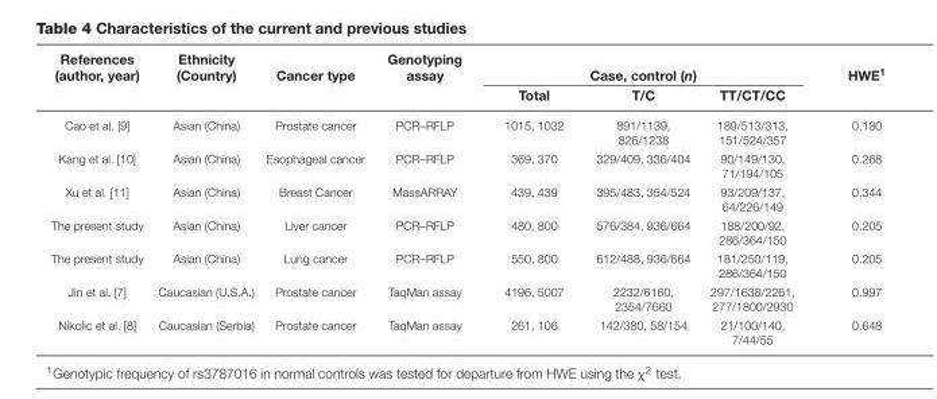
<table><thead><tr><td rowspan="2">References (author, year)</td><td rowspan="2">Ethnicity (Country)</td><td rowspan="2">Cancer type</td><td rowspan="2">Genotyping assay</td><td colspan="3">Case, control (n)</td><td rowspan="2">HWE<sup>1</sup></td></tr><tr><td>Total</td><td>T/C</td><td>TT/CT/CC</td></tr></thead><tbody><tr><td>Cao et al. [9]</td><td>Asian (China)</td><td>Prostate cancer</td><td>PCR–RFLP</td><td>1015, 1032</td><td>891/1139, 826/1238</td><td>189/513/313, 151/524/357</td><td>0.180</td></tr><tr><td>Kang et al. [10]</td><td>Asian (China)</td><td>Esophageal cancer</td><td>PCR–RFLP</td><td>369, 370</td><td>329/409, 336/404</td><td>90/149/130, 71/194/105</td><td>0.268</td></tr><tr><td>Xu et al. [11]</td><td>Asian (China)</td><td>Breast Cancer</td><td>MassARRAY</td><td>439, 439</td><td>395/483, 354/524</td><td>93/209/137, 64/226/149</td><td>0.344</td></tr><tr><td>The present study</td><td>Asian (China)</td><td>Liver cancer</td><td>PCR–RFLP</td><td>480, 800</td><td>576/384, 936/664</td><td>188/200/92, 286/364/150</td><td>0.205</td></tr><tr><td>The present study</td><td>Asian (China)</td><td>Lung cancer</td><td>PCR–RFLP</td><td>550, 800</td><td>612/488, 936/664</td><td>181/250/119, 286/364/150</td><td>0.205</td></tr><tr><td>Jin et al. [7]</td><td>Caucasian (U.S.A.)</td><td>Prostate cancer</td><td>TaqMan assay</td><td>4196, 5007</td><td>2232/6160, 2354/7660</td><td>297/1638/2261, 277/1800/2930</td><td>0.997</td></tr><tr><td>Nikolic et al. [8]</td><td>Caucasian (Serbia)</td><td>Prostate cancer</td><td>TaqMan assay</td><td>261, 106</td><td>142/380, 58/154</td><td>21/100/140, 7/44/55</td><td>0.648</td></tr></tbody></table>